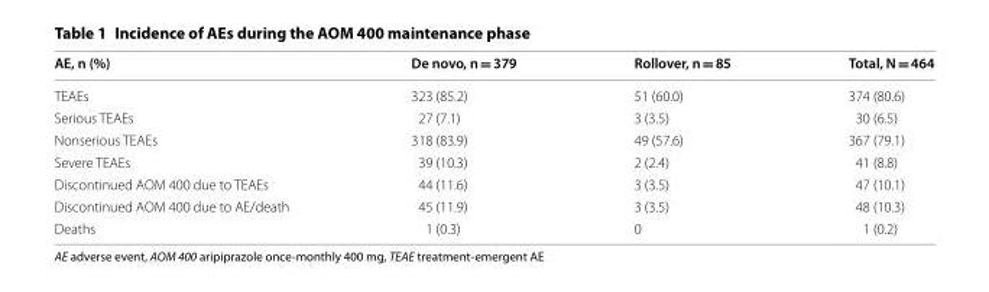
<table><thead><tr><td>AE, n (%)</td><td>De novo, n = 379</td><td>Rollover, n = 85</td><td>Total, N = 464</td></tr></thead><tbody><tr><td>TEAEs</td><td>323 (85.2)</td><td>51 (60.0)</td><td>374 (80.6)</td></tr><tr><td>Serious TEAEs</td><td>27 (7.1)</td><td>3 (3.5)</td><td>30 (6.5)</td></tr><tr><td>Nonserious TEAEs</td><td>318 (83.9)</td><td>49 (57.6)</td><td>367 (79.1)</td></tr><tr><td>Severe TEAEs</td><td>39 (10.3)</td><td>2 (2.4)</td><td>41 (8.8)</td></tr><tr><td>Discontinued AOM 400 due to TEAEs</td><td>44 (11.6)</td><td>3 (3.5)</td><td>47 (10.1)</td></tr><tr><td>Discontinued AOM 400 due to AE/death</td><td>45 (11.9)</td><td>3 (3.5)</td><td>48 (10.3)</td></tr><tr><td>Deaths</td><td>1 (0.3)</td><td>0</td><td>1 (0.2)</td></tr></tbody></table>